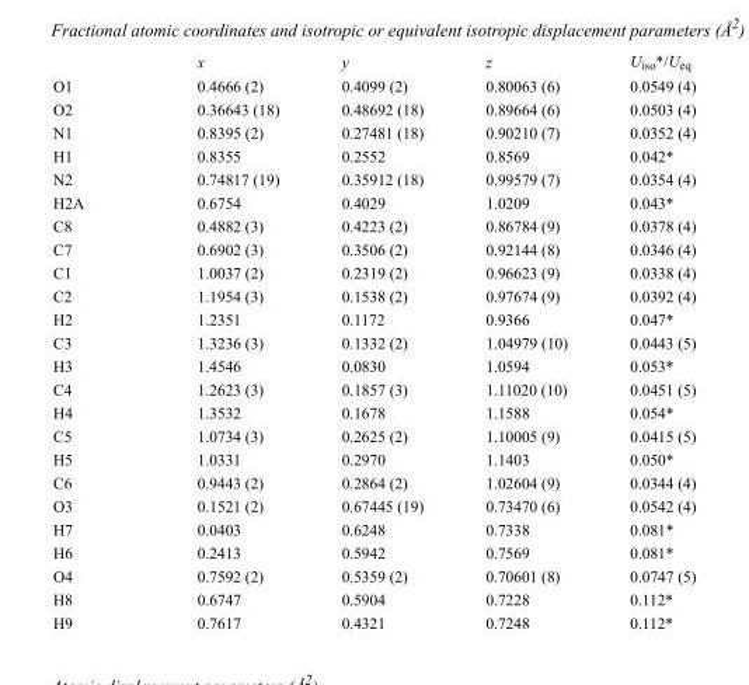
<table><thead><tr><td></td><td>x</td><td>y</td><td>z</td><td>U<sub>iso</sub>*/U<sub>eq</sub></td></tr></thead><tbody><tr><td>O1</td><td>0.4666 (2)</td><td>0.4099 (2)</td><td>0.80063 (6)</td><td>0.0549 (4)</td></tr><tr><td>O2</td><td>0.36643 (18)</td><td>0.48692 (18)</td><td>0.89664 (6)</td><td>0.0503 (4)</td></tr><tr><td>N1</td><td>0.8395 (2)</td><td>0.27481 (18)</td><td>0.90210 (7)</td><td>0.0352 (4)</td></tr><tr><td>H1</td><td>0.8355</td><td>0.2552</td><td>0.8569</td><td>0.042*</td></tr><tr><td>N2</td><td>0.74817 (19)</td><td>0.35912 (18)</td><td>0.99579 (7)</td><td>0.0354 (4)</td></tr><tr><td>H2A</td><td>0.6754</td><td>0.4029</td><td>1.0209</td><td>0.043*</td></tr><tr><td>C8</td><td>0.4882 (3)</td><td>0.4223 (2)</td><td>0.86784 (9)</td><td>0.0378 (4)</td></tr><tr><td>C7</td><td>0.6902 (3)</td><td>0.3506 (2)</td><td>0.92144 (8)</td><td>0.0346 (4)</td></tr><tr><td>C1</td><td>1.0037 (2)</td><td>0.2319 (2)</td><td>0.96623 (9)</td><td>0.0338 (4)</td></tr><tr><td>C2</td><td>1.1954 (3)</td><td>0.1538 (2)</td><td>0.97674 (9)</td><td>0.0392 (4)</td></tr><tr><td>H2</td><td>1.2351</td><td>0.1172</td><td>0.9366</td><td>0.047*</td></tr><tr><td>C3</td><td>1.3236 (3)</td><td>0.1332 (2)</td><td>1.04979 (10)</td><td>0.0443 (5)</td></tr><tr><td>H3</td><td>1.4546</td><td>0.0830</td><td>1.0594</td><td>0.053*</td></tr><tr><td>C4</td><td>1.2623 (3)</td><td>0.1857 (3)</td><td>1.11020 (10)</td><td>0.0451 (5)</td></tr><tr><td>H4</td><td>1.3532</td><td>0.1678</td><td>1.1588</td><td>0.054*</td></tr><tr><td>C5</td><td>1.0734 (3)</td><td>0.2625 (2)</td><td>1.10005 (9)</td><td>0.0415 (5)</td></tr><tr><td>H5</td><td>1.0331</td><td>0.2970</td><td>1.1403</td><td>0.050*</td></tr><tr><td>C6</td><td>0.9443 (2)</td><td>0.2864 (2)</td><td>1.02604 (9)</td><td>0.0344 (4)</td></tr><tr><td>O3</td><td>0.1521 (2)</td><td>0.67445 (19)</td><td>0.73470 (6)</td><td>0.0542 (4)</td></tr><tr><td>H7</td><td>0.0403</td><td>0.6248</td><td>0.7338</td><td>0.081*</td></tr><tr><td>H6</td><td>0.2413</td><td>0.5942</td><td>0.7569</td><td>0.081*</td></tr><tr><td>O4</td><td>0.7592 (2)</td><td>0.5359 (2)</td><td>0.70601 (8)</td><td>0.0747 (5)</td></tr><tr><td>H8</td><td>0.6747</td><td>0.5904</td><td>0.7228</td><td>0.112*</td></tr><tr><td>H9</td><td>0.7617</td><td>0.4321</td><td>0.7248</td><td>0.112*</td></tr></tbody></table>